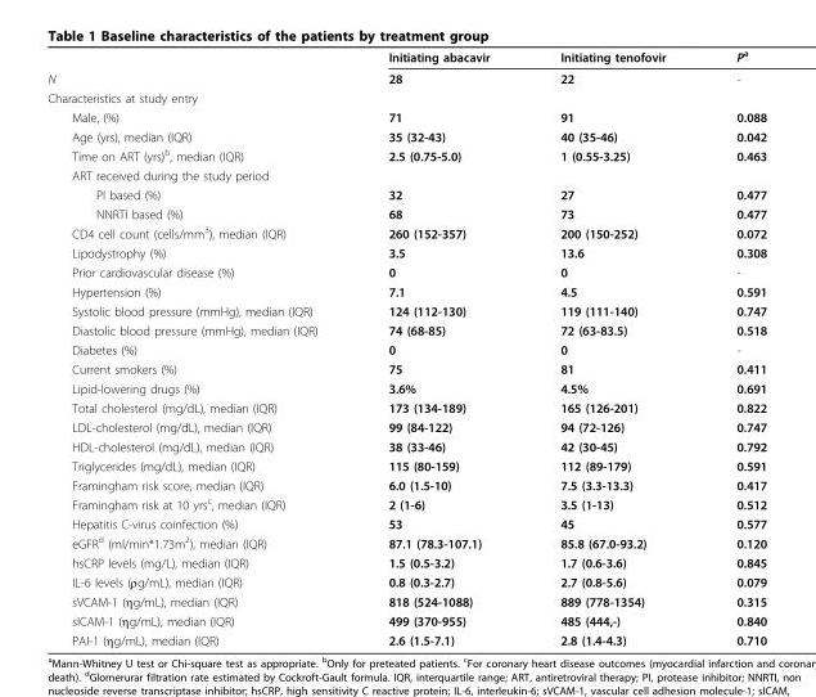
<table><thead><tr><td></td><td>Initiating abacavir</td><td>Initiating tenofovir</td><td>P<sup>a</sup></td></tr></thead><tbody><tr><td>N</td><td>28</td><td>22</td><td>-</td></tr><tr><td colspan="4">Characteristics at study entry</td></tr><tr><td>Male, (%)</td><td>71</td><td>91</td><td>0.088</td></tr><tr><td>Age (yrs), median (IQR)</td><td>35 (32-43)</td><td>40 (35-46)</td><td>0.042</td></tr><tr><td>Time on ART (yrs)<sup>b</sup>, median (IQR)</td><td>2.5 (0.75-5.0)</td><td>1 (0.55-3.25)</td><td>0.463</td></tr><tr><td colspan="4">ART received during the study period</td></tr><tr><td>PI based (%)</td><td>32</td><td>27</td><td>0.477</td></tr><tr><td>NNRTI based (%)</td><td>68</td><td>73</td><td>0.477</td></tr><tr><td>CD4 cell count (cells/mm<sup>3</sup>), median (IQR)</td><td>260 (152-357)</td><td>200 (150-252)</td><td>0.072</td></tr><tr><td>Lipodystrophy (%)</td><td>3.5</td><td>13.6</td><td>0.308</td></tr><tr><td>Prior cardiovascular disease (%)</td><td>0</td><td>0</td><td>-</td></tr><tr><td>Hypertension (%)</td><td>7.1</td><td>4.5</td><td>0.591</td></tr><tr><td>Systolic blood pressure (mmHg), median (IQR)</td><td>124 (112-130)</td><td>119 (111-140)</td><td>0.747</td></tr><tr><td>Diastolic blood pressure (mmHg), median (IQR)</td><td>74 (68-85)</td><td>72 (63-83.5)</td><td>0.518</td></tr><tr><td>Diabetes (%)</td><td>0</td><td>0</td><td>-</td></tr><tr><td>Current smokers (%)</td><td>75</td><td>81</td><td>0.411</td></tr><tr><td>Lipid-lowering drugs (%)</td><td>3.6%</td><td>4.5%</td><td>0.691</td></tr><tr><td>Total cholesterol (mg/dL), median (IQR)</td><td>173 (134-189)</td><td>165 (126-201)</td><td>0.822</td></tr><tr><td>LDL-cholesterol (mg/dL), median (IQR)</td><td>99 (84-122)</td><td>94 (72-126)</td><td>0.747</td></tr><tr><td>HDL-cholesterol (mg/dL), median (IQR)</td><td>38 (33-46)</td><td>42 (30-45)</td><td>0.792</td></tr><tr><td>Triglycerides (mg/dL), median (IQR)</td><td>115 (80-159)</td><td>112 (89-179)</td><td>0.591</td></tr><tr><td>Framingham risk score, median (IQR)</td><td>6.0 (1.5-10)</td><td>7.5 (3.3-13.3)</td><td>0.417</td></tr><tr><td>Framingham risk at 10 yrs<sup>c</sup>, median (IQR)</td><td>2 (1-6)</td><td>3.5 (1-13)</td><td>0.512</td></tr><tr><td>Hepatitis C-virus coinfection (%)</td><td>53</td><td>45</td><td>0.577</td></tr><tr><td>eGFR<sup>d</sup> (ml/min*1.73m<sup>2</sup>), median (IQR)</td><td>87.1 (78.3-107.1)</td><td>85.8 (67.0-93.2)</td><td>0.120</td></tr><tr><td>hsCRP levels (mg/L), median (IQR)</td><td>1.5 (0.5-3.2)</td><td>1.7 (0.6-3.6)</td><td>0.845</td></tr><tr><td>IL-6 levels (ρg/mL), median (IQR)</td><td>0.8 (0.3-2.7)</td><td>2.7 (0.8-5.6)</td><td>0.079</td></tr><tr><td>sVCAM-1 (ηg/mL), median (IQR)</td><td>818 (524-1088)</td><td>889 (778-1354)</td><td>0.315</td></tr><tr><td>sICAM-1 (ηg/mL), median (IQR)</td><td>499 (370-955)</td><td>485 (444,-)</td><td>0.840</td></tr><tr><td>PAI-1 (ηg/mL), median (IQR)</td><td>2.6 (1.5-7.1)</td><td>2.8 (1.4-4.3)</td><td>0.710</td></tr></tbody></table>